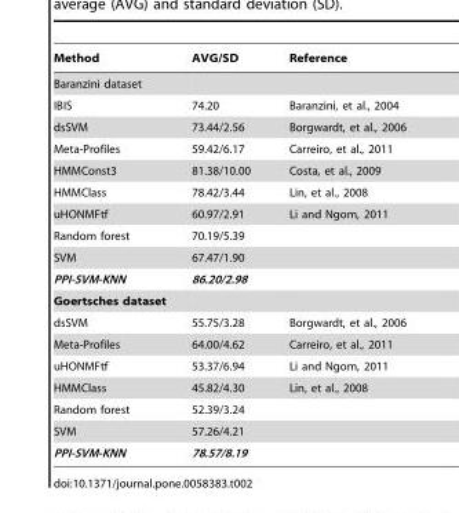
<table><thead><tr><td>Method</td><td>AVG/SD</td><td>Reference</td></tr></thead><tbody><tr><td colspan="3">Baranzini dataset</td></tr><tr><td>IBIS</td><td>74.20</td><td>Baranzini, et al., 2004</td></tr><tr><td>dsSVM</td><td>73.44/2.56</td><td>Borgwardt, et al., 2006</td></tr><tr><td>Meta-Profiles</td><td>59.42/6.17</td><td>Carreiro, et al., 2011</td></tr><tr><td>HMMConst3</td><td>81.38/10.00</td><td>Costa, et al., 2009</td></tr><tr><td>HMMClass</td><td>78.42/3.44</td><td>Lin, et al., 2008</td></tr><tr><td>uHONMFtf</td><td>60.97/2.91</td><td>Li and Ngom, 2011</td></tr><tr><td>Random forest</td><td>70.19/5.39</td><td></td></tr><tr><td>SVM</td><td>67.47/1.90</td><td></td></tr><tr><td>PPI-SVM-KNN</td><td>86.20/2.98</td><td></td></tr><tr><td colspan="3">Goertsches dataset</td></tr><tr><td>dsSVM</td><td>55.75/3.28</td><td>Borgwardt, et al., 2006</td></tr><tr><td>Meta-Profiles</td><td>64.00/4.62</td><td>Carreiro, et al., 2011</td></tr><tr><td>uHONMFtf</td><td>53.37/6.94</td><td>Li and Ngom, 2011</td></tr><tr><td>HMMClass</td><td>45.82/4.30</td><td>Lin, et al., 2008</td></tr><tr><td>Random forest</td><td>52.39/3.24</td><td></td></tr><tr><td>SVM</td><td>57.26/4.21</td><td></td></tr><tr><td>PPI-SVM-KNN</td><td>78.57/8.19</td><td></td></tr></tbody></table>